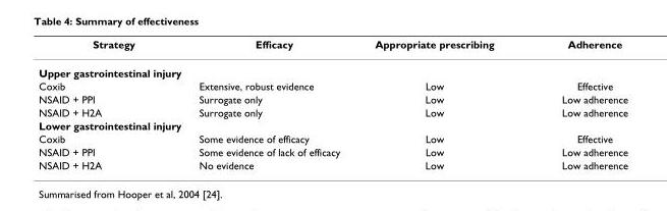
<table><thead><tr><td>Strategy</td><td>Efficacy</td><td>Appropriate prescribing</td><td>Adherence</td></tr></thead><tbody><tr><td colspan="4">Upper gastrointestinal injury</td></tr><tr><td>Coxib</td><td>Extensive, robust evidence</td><td>Low</td><td>Effective</td></tr><tr><td>NSAID + PPI</td><td>Surrogate only</td><td>Low</td><td>Low adherence</td></tr><tr><td>NSAID + H2A</td><td>Surrogate only</td><td>Low</td><td>Low adherence</td></tr><tr><td colspan="4">Lower gastrointestinal injury</td></tr><tr><td>Coxib</td><td>Some evidence of efficacy</td><td>Low</td><td>Effective</td></tr><tr><td>NSAID + PPI</td><td>Some evidence of lack of efficacy</td><td>Low</td><td>Low adherence</td></tr><tr><td>NSAID + H2A</td><td>No evidence</td><td>Low</td><td>Low adherence</td></tr></tbody></table>